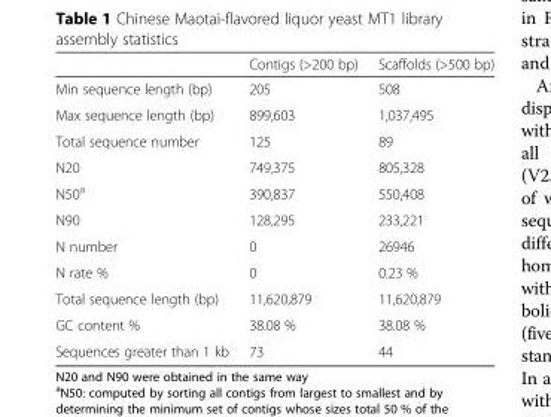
<table><thead><tr><td></td><td>Contigs (&gt;200 bp)</td><td>Scaffolds (&gt;500 bp)</td></tr></thead><tbody><tr><td>Min sequence length (bp)</td><td>205</td><td>508</td></tr><tr><td>Max sequence length (bp)</td><td>899,603</td><td>1,037,495</td></tr><tr><td>Total sequence number</td><td>125</td><td>89</td></tr><tr><td>N20</td><td>749,375</td><td>805,328</td></tr><tr><td>N50<sup>a</sup></td><td>390,837</td><td>550,408</td></tr><tr><td>N90</td><td>128,295</td><td>233,221</td></tr><tr><td>N number</td><td>0</td><td>26946</td></tr><tr><td>N rate %</td><td>0</td><td>0.23 %</td></tr><tr><td>Total sequence length (bp)</td><td>11,620,879</td><td>11,620,879</td></tr><tr><td>GC content %</td><td>38.08 %</td><td>38.08 %</td></tr><tr><td>Sequences greater than 1 kb</td><td>73</td><td>44</td></tr></tbody></table>